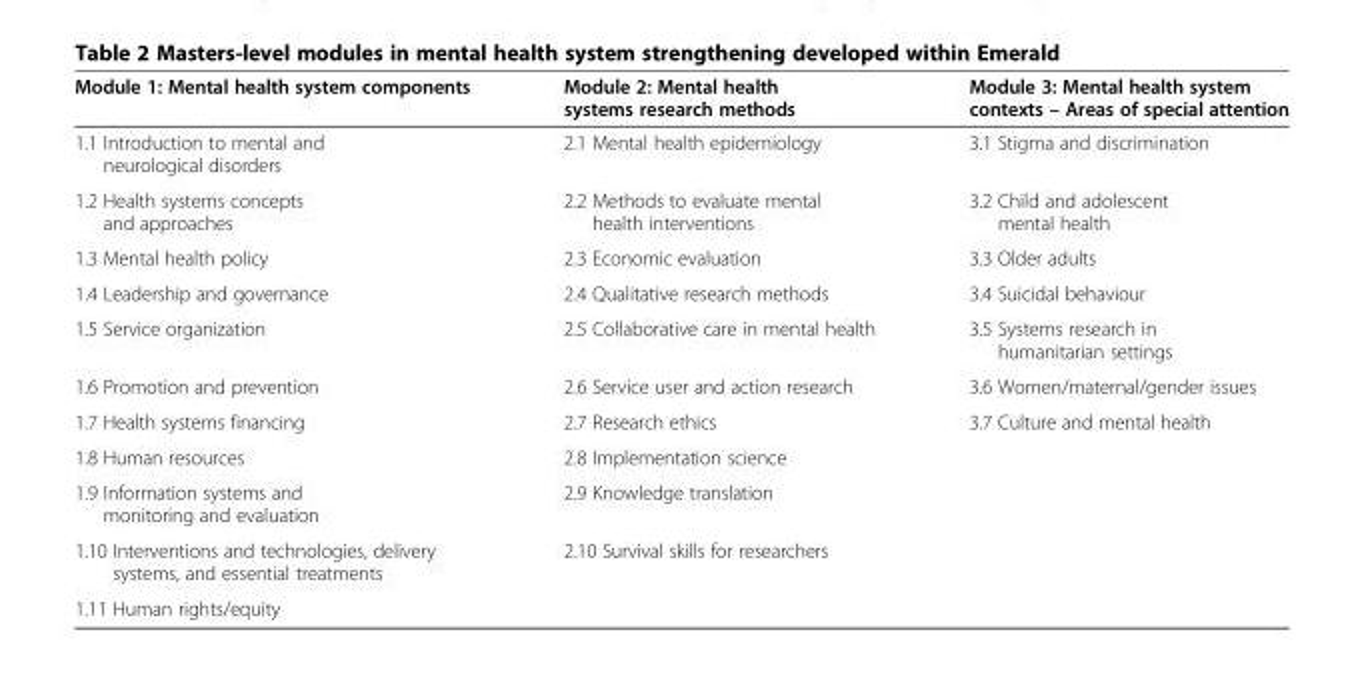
<table><thead><tr><td>Module 1: Mental health system components</td><td>Module 2: Mental health systems research methods</td><td>Module 3: Mental health system contexts – Areas of special attention</td></tr></thead><tbody><tr><td>1.1 Introduction to mental and neurological disorders</td><td>2.1 Mental health epidemiology</td><td>3.1 Stigma and discrimination</td></tr><tr><td>1.2 Health systems concepts and approaches</td><td>2.2 Methods to evaluate mental health interventions</td><td>3.2 Child and adolescent mental health</td></tr><tr><td>1.3 Mental health policy</td><td>2.3 Economic evaluation</td><td>3.3 Older adults</td></tr><tr><td>1.4 Leadership and governance</td><td>2.4 Qualitative research methods</td><td>3.4 Suicidal behaviour</td></tr><tr><td>1.5 Service organization</td><td>2.5 Collaborative care in mental health</td><td>3.5 Systems research in humanitarian settings</td></tr><tr><td>1.6 Promotion and prevention</td><td>2.6 Service user and action research</td><td>3.6 Women/maternal/gender issues</td></tr><tr><td>1.7 Health systems financing</td><td>2.7 Research ethics</td><td>3.7 Culture and mental health</td></tr><tr><td>1.8 Human resources</td><td>2.8 Implementation science</td><td></td></tr><tr><td>1.9 Information systems and monitoring and evaluation</td><td>2.9 Knowledge translation</td><td></td></tr><tr><td>1.10 Interventions and technologies, delivery systems, and essential treatments</td><td>2.10 Survival skills for researchers</td><td></td></tr><tr><td>1.11 Human rights/equity</td><td></td><td></td></tr></tbody></table>